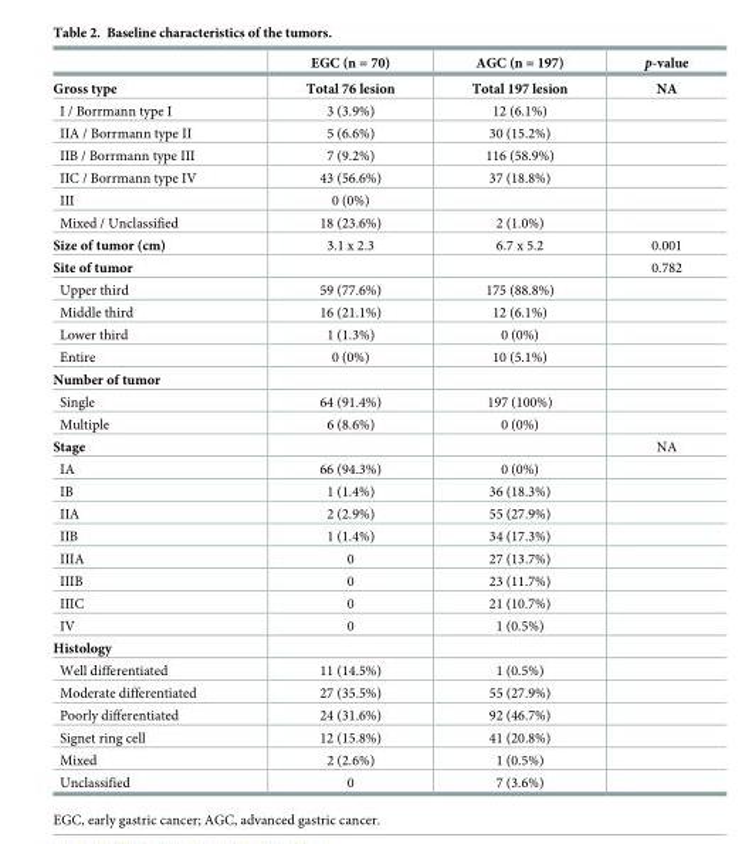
<table><thead><tr><td rowspan="2">Gross type</td><td rowspan="2">EGC (n = 70) Total 76 lesion</td><td rowspan="2">AGC (n = 197) Total 197 lesion</td><td rowspan="2">p-value NA</td></tr><tr></tr></thead><tbody><tr><td>I / Borrmann type I</td><td>3 (3.9%)</td><td>12 (6.1%)</td><td></td></tr><tr><td>IIA / Borrmann type II</td><td>5 (6.6%)</td><td>30 (15.2%)</td><td></td></tr><tr><td>IIB / Borrmann type III</td><td>7 (9.2%)</td><td>116 (58.9%)</td><td></td></tr><tr><td>IIC / Borrmann type IV</td><td>43 (56.6%)</td><td>37 (18.8%)</td><td></td></tr><tr><td>III</td><td>0 (0%)</td><td></td><td></td></tr><tr><td>Mixed / Unclassified</td><td>18 (23.6%)</td><td>2 (1.0%)</td><td></td></tr><tr><td>Size of tumor (cm)</td><td>3.1 x 2.3</td><td>6.7 x 5.2</td><td>0.001</td></tr><tr><td>Site of tumor</td><td></td><td></td><td>0.782</td></tr><tr><td>Upper third</td><td>59 (77.6%)</td><td>175 (88.8%)</td><td></td></tr><tr><td>Middle third</td><td>16 (21.1%)</td><td>12 (6.1%)</td><td></td></tr><tr><td>Lower third</td><td>1 (1.3%)</td><td>0 (0%)</td><td></td></tr><tr><td>Entire</td><td>0 (0%)</td><td>10 (5.1%)</td><td></td></tr><tr><td colspan="4">Number of tumor</td></tr><tr><td>Single</td><td>64 (91.4%)</td><td>197 (100%)</td><td></td></tr><tr><td>Multiple</td><td>6 (8.6%)</td><td>0 (0%)</td><td></td></tr><tr><td>Stage</td><td></td><td></td><td>NA</td></tr><tr><td>IA</td><td>66 (94.3%)</td><td>0 (0%)</td><td></td></tr><tr><td>IB</td><td>1 (1.4%)</td><td>36 (18.3%)</td><td></td></tr><tr><td>IIA</td><td>2 (2.9%)</td><td>55 (27.9%)</td><td></td></tr><tr><td>IIB</td><td>1 (1.4%)</td><td>34 (17.3%)</td><td></td></tr><tr><td>IIIA</td><td>0</td><td>27 (13.7%)</td><td></td></tr><tr><td>IIIB</td><td>0</td><td>23 (11.7%)</td><td></td></tr><tr><td>IIIC</td><td>0</td><td>21 (10.7%)</td><td></td></tr><tr><td>IV</td><td>0</td><td>1 (0.5%)</td><td></td></tr><tr><td colspan="4">Histology</td></tr><tr><td>Well differentiated</td><td>11 (14.5%)</td><td>1 (0.5%)</td><td></td></tr><tr><td>Moderate differentiated</td><td>27 (35.5%)</td><td>55 (27.9%)</td><td></td></tr><tr><td>Poorly differentiated</td><td>24 (31.6%)</td><td>92 (46.7%)</td><td></td></tr><tr><td>Signet ring cell</td><td>12 (15.8%)</td><td>41 (20.8%)</td><td></td></tr><tr><td>Mixed</td><td>2 (2.6%)</td><td>1 (0.5%)</td><td></td></tr><tr><td>Unclassified</td><td>0</td><td>7 (3.6%)</td><td></td></tr></tbody></table>